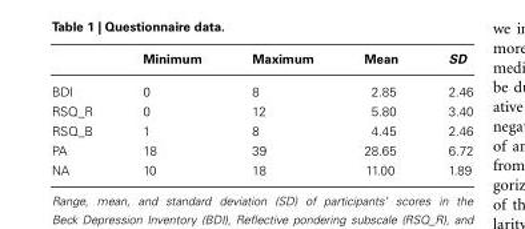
<table><thead><tr><td></td><td>Minimum</td><td>Maximum</td><td>Mean</td><td>SD</td></tr></thead><tbody><tr><td>BDI</td><td>0</td><td>8</td><td>2.85</td><td>2.46</td></tr><tr><td>RSQ_R</td><td>0</td><td>12</td><td>5.80</td><td>3.40</td></tr><tr><td>RSQ_B</td><td>1</td><td>8</td><td>4.45</td><td>2.46</td></tr><tr><td>PA</td><td>18</td><td>39</td><td>28.65</td><td>6.72</td></tr><tr><td>NA</td><td>10</td><td>18</td><td>11.00</td><td>1.89</td></tr></tbody></table>